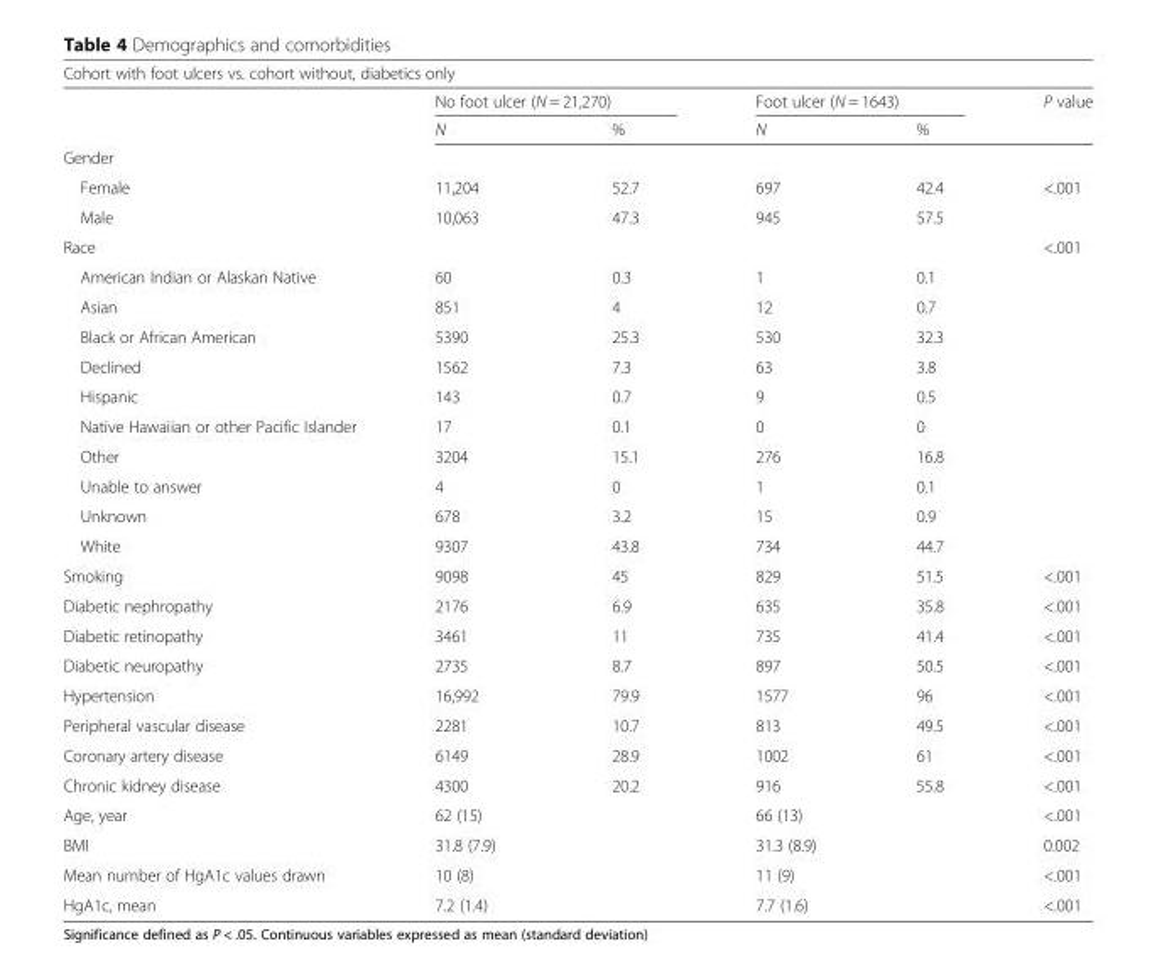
<table><thead><tr><td colspan="6">Cohort with foot ulcers vs. cohort without, diabetics only</td></tr><tr><td rowspan="2"></td><td colspan="2">No foot ulcer (N = 21,270)</td><td colspan="2">Foot ulcer (N = 1643)</td><td rowspan="2">P value</td></tr><tr><td>N</td><td>%</td><td>N</td><td>%</td></tr></thead><tbody><tr><td colspan="6">Gender</td></tr><tr><td>Female</td><td>11,204</td><td>52.7</td><td>697</td><td>42.4</td><td>&lt;.001</td></tr><tr><td>Male</td><td>10,063</td><td>47.3</td><td>945</td><td>57.5</td><td></td></tr><tr><td>Race</td><td></td><td></td><td></td><td></td><td>&lt;.001</td></tr><tr><td>American Indian or Alaskan Native</td><td>60</td><td>0.3</td><td>1</td><td>0.1</td><td></td></tr><tr><td>Asian</td><td>851</td><td>4</td><td>12</td><td>0.7</td><td></td></tr><tr><td>Black or African American</td><td>5390</td><td>25.3</td><td>530</td><td>32.3</td><td></td></tr><tr><td>Declined</td><td>1562</td><td>7.3</td><td>63</td><td>3.8</td><td></td></tr><tr><td>Hispanic</td><td>143</td><td>0.7</td><td>9</td><td>0.5</td><td></td></tr><tr><td>Native Hawaiian or other Pacific Islander</td><td>17</td><td>0.1</td><td>0</td><td>0</td><td></td></tr><tr><td>Other</td><td>3204</td><td>15.1</td><td>276</td><td>16.8</td><td></td></tr><tr><td>Unable to answer</td><td>4</td><td>0</td><td>1</td><td>0.1</td><td></td></tr><tr><td>Unknown</td><td>678</td><td>3.2</td><td>15</td><td>0.9</td><td></td></tr><tr><td>White</td><td>9307</td><td>43.8</td><td>734</td><td>44.7</td><td></td></tr><tr><td>Smoking</td><td>9098</td><td>45</td><td>829</td><td>51.5</td><td>&lt;.001</td></tr><tr><td>Diabetic nephropathy</td><td>2176</td><td>6.9</td><td>635</td><td>35.8</td><td>&lt;.001</td></tr><tr><td>Diabetic retinopathy</td><td>3461</td><td>11</td><td>735</td><td>41.4</td><td>&lt;.001</td></tr><tr><td>Diabetic neuropathy</td><td>2735</td><td>8.7</td><td>897</td><td>50.5</td><td>&lt;.001</td></tr><tr><td>Hypertension</td><td>16,992</td><td>79.9</td><td>1577</td><td>96</td><td>&lt;.001</td></tr><tr><td>Peripheral vascular disease</td><td>2281</td><td>10.7</td><td>813</td><td>49.5</td><td>&lt;.001</td></tr><tr><td>Coronary artery disease</td><td>6149</td><td>28.9</td><td>1002</td><td>61</td><td>&lt;.001</td></tr><tr><td>Chronic kidney disease</td><td>4300</td><td>20.2</td><td>916</td><td>55.8</td><td>&lt;.001</td></tr><tr><td>Age, year</td><td>62 (15)</td><td></td><td>66 (13)</td><td></td><td>&lt;.001</td></tr><tr><td>BMI</td><td>31.8 (7.9)</td><td></td><td>31.3 (8.9)</td><td></td><td>0.002</td></tr><tr><td>Mean number of HgA1c values drawn</td><td>10 (8)</td><td></td><td>11 (9)</td><td></td><td>&lt;.001</td></tr><tr><td>HgA1c, mean</td><td>7.2 (1.4)</td><td></td><td>7.7 (1.6)</td><td></td><td>&lt;.001</td></tr></tbody></table>